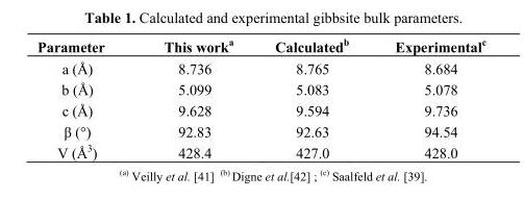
<table><thead><tr><td>Parameter</td><td>This work<sup>a</sup></td><td>Calculated<sup>b</sup></td><td>Experimental<sup>c</sup></td></tr></thead><tbody><tr><td>a (Å)</td><td>8.736</td><td>8.765</td><td>8.684</td></tr><tr><td>b (Å)</td><td>5.099</td><td>5.083</td><td>5.078</td></tr><tr><td>c (Å)</td><td>9.628</td><td>9.594</td><td>9.736</td></tr><tr><td>β (°)</td><td>92.83</td><td>92.63</td><td>94.54</td></tr><tr><td>V (Å<sup>3</sup>)</td><td>428.4</td><td>427.0</td><td>428.0</td></tr></tbody></table>